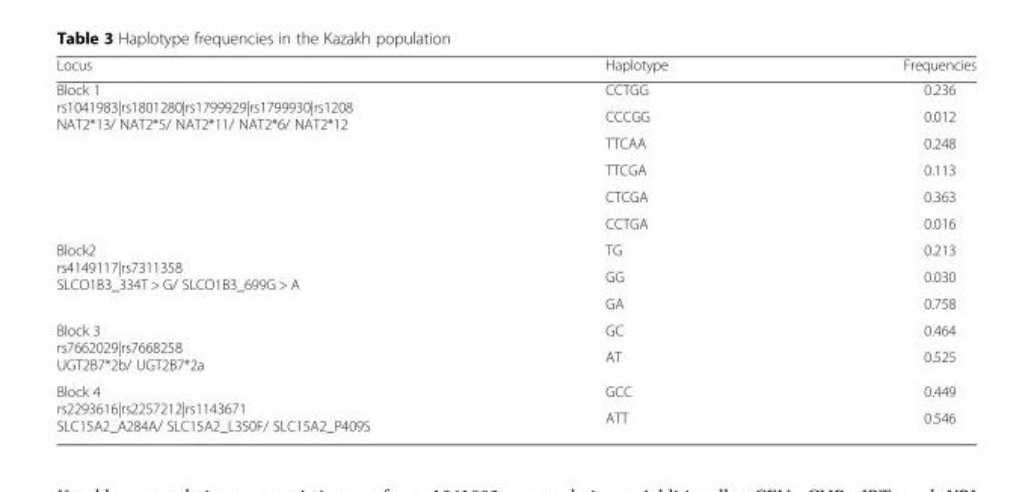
<table><thead><tr><td>Locus</td><td>Haplotype</td><td>Frequencies</td></tr></thead><tbody><tr><td rowspan="6">Block 1 rs1041983|rs1801280|rs1799929|rs1799930|rs1208 NAT2*13/ NAT2*5/ NAT2*11/ NAT2*6/ NAT2*12</td><td>CCTGG</td><td>0.236</td></tr><tr><td>CCCGG</td><td>0.012</td></tr><tr><td>TTCAA</td><td>0.248</td></tr><tr><td>TTCGA</td><td>0.113</td></tr><tr><td>CTCGA</td><td>0.363</td></tr><tr><td>CCTGA</td><td>0.016</td></tr><tr><td rowspan="3">Block2 rs4149117|rs7311358 SLCO1B3_334T &gt; G/ SLCO1B3_699G &gt; A</td><td>TG</td><td>0.213</td></tr><tr><td>GG</td><td>0.030</td></tr><tr><td>GA</td><td>0.758</td></tr><tr><td rowspan="2">Block 3 rs7662029|rs7668258 UGT2B7*2b/ UGT2B7*2a</td><td>GC</td><td>0.464</td></tr><tr><td>AT</td><td>0.525</td></tr><tr><td rowspan="2">Block 4 rs2293616|rs2257212|rs1143671 SLC15A2_A284A/ SLC15A2_L350F/ SLC15A2_P409S</td><td>GCC</td><td>0.449</td></tr><tr><td>ATT</td><td>0.546</td></tr></tbody></table>